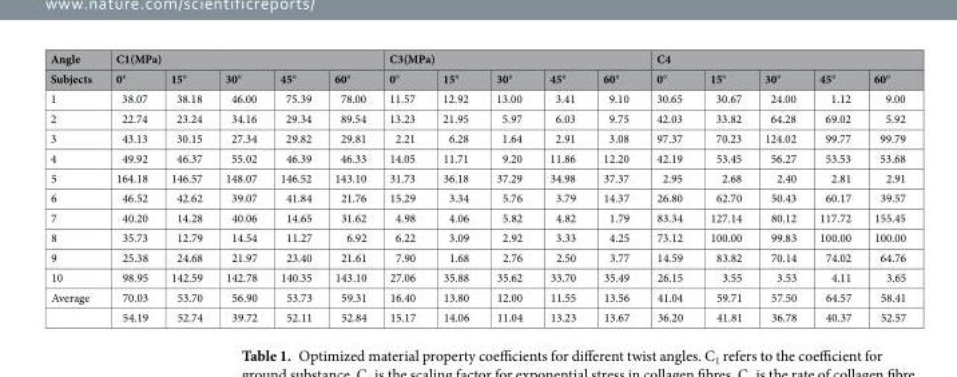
<table><thead><tr><td rowspan="2">Angle Subjects</td><td colspan="5">C1(MPa)</td><td colspan="5">C3(MPa)</td><td colspan="5">C4</td></tr><tr><td>0°</td><td>15°</td><td>30°</td><td>45°</td><td>60°</td><td>0°</td><td>15°</td><td>30°</td><td>45°</td><td>60°</td><td>0°</td><td>15°</td><td>30°</td><td>45°</td><td>60°</td></tr></thead><tbody><tr><td>1</td><td>38.07</td><td>38.18</td><td>46.00</td><td>75.39</td><td>78.00</td><td>11.57</td><td>12.92</td><td>13.00</td><td>3.41</td><td>9.10</td><td>30.65</td><td>30.67</td><td>24.00</td><td>1.12</td><td>9.00</td></tr><tr><td>2</td><td>22.74</td><td>23.24</td><td>34.16</td><td>29.34</td><td>89.54</td><td>13.23</td><td>21.95</td><td>5.97</td><td>6.03</td><td>9.75</td><td>42.03</td><td>33.82</td><td>64.28</td><td>69.02</td><td>5.92</td></tr><tr><td>3</td><td>43.13</td><td>30.15</td><td>27.34</td><td>29.82</td><td>29.81</td><td>2.21</td><td>6.28</td><td>1.64</td><td>2.91</td><td>3.08</td><td>97.37</td><td>70.23</td><td>124.02</td><td>99.77</td><td>99.79</td></tr><tr><td>4</td><td>49.92</td><td>46.37</td><td>55.02</td><td>46.39</td><td>46.33</td><td>14.05</td><td>11.71</td><td>9.20</td><td>11.86</td><td>12.20</td><td>42.19</td><td>53.45</td><td>56.27</td><td>53.53</td><td>53.68</td></tr><tr><td>5</td><td>164.18</td><td>146.57</td><td>148.07</td><td>146.52</td><td>143.10</td><td>31.73</td><td>36.18</td><td>37.29</td><td>34.98</td><td>37.37</td><td>2.95</td><td>2.68</td><td>2.40</td><td>2.81</td><td>2.91</td></tr><tr><td>6</td><td>46.52</td><td>42.62</td><td>39.07</td><td>41.84</td><td>21.76</td><td>15.29</td><td>3.34</td><td>5.76</td><td>3.79</td><td>14.37</td><td>26.80</td><td>62.70</td><td>50.43</td><td>60.17</td><td>39.57</td></tr><tr><td>7</td><td>40.20</td><td>14.28</td><td>40.06</td><td>14.65</td><td>31.62</td><td>4.98</td><td>4.06</td><td>5.82</td><td>4.82</td><td>1.79</td><td>83.34</td><td>127.14</td><td>80.12</td><td>117.72</td><td>155.45</td></tr><tr><td>8</td><td>35.73</td><td>12.79</td><td>14.54</td><td>11.27</td><td>6.92</td><td>6.22</td><td>3.09</td><td>2.92</td><td>3.33</td><td>4.25</td><td>73.12</td><td>100.00</td><td>99.83</td><td>100.00</td><td>100.00</td></tr><tr><td>9</td><td>25.38</td><td>24.68</td><td>21.97</td><td>23.40</td><td>21.61</td><td>7.90</td><td>1.68</td><td>2.76</td><td>2.50</td><td>3.77</td><td>14.59</td><td>83.82</td><td>70.14</td><td>74.02</td><td>64.76</td></tr><tr><td>10</td><td>98.95</td><td>142.59</td><td>142.78</td><td>140.35</td><td>143.10</td><td>27.06</td><td>35.88</td><td>35.62</td><td>33.70</td><td>35.49</td><td>26.15</td><td>3.55</td><td>3.53</td><td>4.11</td><td>3.65</td></tr><tr><td rowspan="2">Average</td><td>70.03</td><td>53.70</td><td>56.90</td><td>53.73</td><td>59.31</td><td>16.40</td><td>13.80</td><td>12.00</td><td>11.55</td><td>13.56</td><td>41.04</td><td>59.71</td><td>57.50</td><td>64.57</td><td>58.41</td></tr><tr><td>54.19</td><td>52.74</td><td>39.72</td><td>52.11</td><td>52.84</td><td>15.17</td><td>14.06</td><td>11.04</td><td>13.23</td><td>13.67</td><td>36.20</td><td>41.81</td><td>36.78</td><td>40.37</td><td>52.57</td></tr></tbody></table>